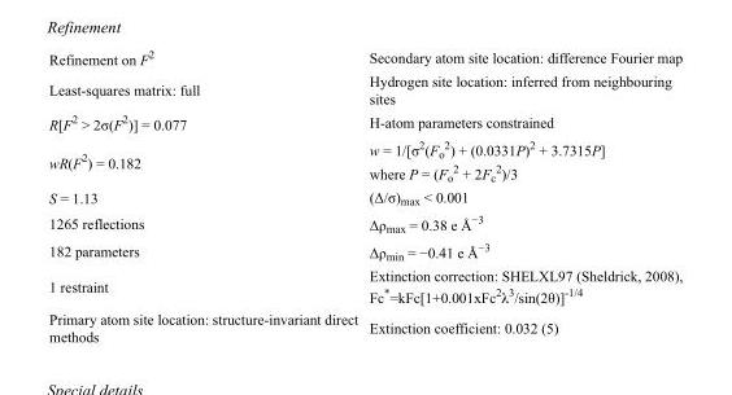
<table><tbody><tr><td>Refinement on F<sup>2</sup></td><td>Secondary atom site location: difference Fourier map</td></tr><tr><td>Least-squares matrix: full</td><td>Hydrogen site location: inferred from neighbouring sites</td></tr><tr><td>R[F<sup>2</sup> &gt; 2σ(F<sup>2</sup>)] = 0.077</td><td>H-atom parameters constrained</td></tr><tr><td>wR(F<sup>2</sup>) = 0.182</td><td>w = 1/[σ<sup>2</sup>(F<sub>o</sub> <sup>2</sup>) + (0.0331P)<sup>2</sup> + 3.7315P] where P = (F<sub>o</sub> <sup>2</sup> + 2F<sub>c</sub> <sup>2</sup>)/3</td></tr><tr><td>S = 1.13</td><td>(Δ/σ)<sub>max</sub> &lt; 0.001</td></tr><tr><td>1265 reflections</td><td>Δρ<sub>max</sub> = 0.38 e Å<sup>−3</sup></td></tr><tr><td>182 parameters</td><td>Δρ<sub>min</sub> = −0.41 e Å<sup>−3</sup></td></tr><tr><td>1 restraint</td><td>Extinction correction: SHELXL97 (Sheldrick, 2008), Fc*=kFc[1+0.001xFc<sup>2</sup>λ<sup>3</sup>/sin(2θ)]<sup>-1/4</sup></td></tr><tr><td>Primary atom site location: structure-invariant direct methods</td><td>Extinction coefficient: 0.032 (5)</td></tr></tbody></table>